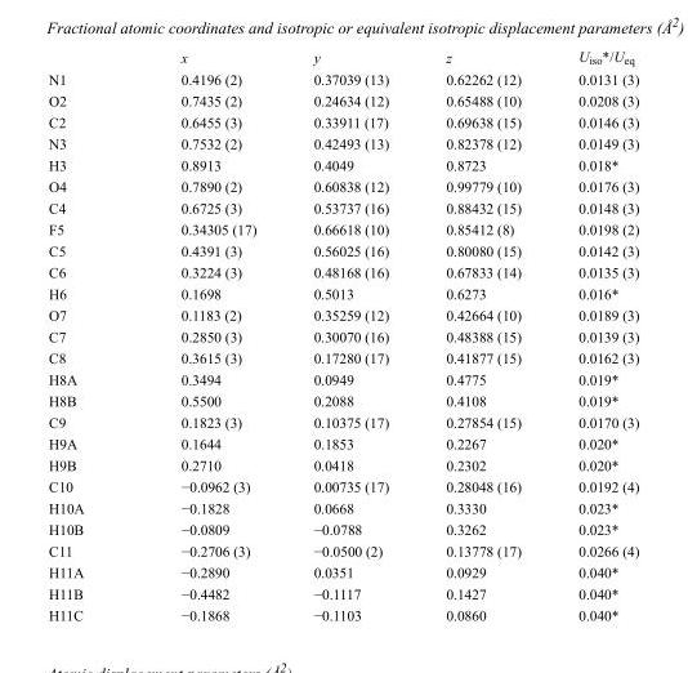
<table><thead><tr><td></td><td>x</td><td>y</td><td>z</td><td>U<sub>iso</sub>*/U<sub>eq</sub></td></tr></thead><tbody><tr><td>N1</td><td>0.4196 (2)</td><td>0.37039 (13)</td><td>0.62262 (12)</td><td>0.0131 (3)</td></tr><tr><td>O2</td><td>0.7435 (2)</td><td>0.24634 (12)</td><td>0.65488 (10)</td><td>0.0208 (3)</td></tr><tr><td>C2</td><td>0.6455 (3)</td><td>0.33911 (17)</td><td>0.69638 (15)</td><td>0.0146 (3)</td></tr><tr><td>N3</td><td>0.7532 (2)</td><td>0.42493 (13)</td><td>0.82378 (12)</td><td>0.0149 (3)</td></tr><tr><td>H3</td><td>0.8913</td><td>0.4049</td><td>0.8723</td><td>0.018*</td></tr><tr><td>O4</td><td>0.7890 (2)</td><td>0.60838 (12)</td><td>0.99779 (10)</td><td>0.0176 (3)</td></tr><tr><td>C4</td><td>0.6725 (3)</td><td>0.53737 (16)</td><td>0.88432 (15)</td><td>0.0148 (3)</td></tr><tr><td>F5</td><td>0.34305 (17)</td><td>0.66618 (10)</td><td>0.85412 (8)</td><td>0.0198 (2)</td></tr><tr><td>C5</td><td>0.4391 (3)</td><td>0.56025 (16)</td><td>0.80080 (15)</td><td>0.0142 (3)</td></tr><tr><td>C6</td><td>0.3224 (3)</td><td>0.48168 (16)</td><td>0.67833 (14)</td><td>0.0135 (3)</td></tr><tr><td>H6</td><td>0.1698</td><td>0.5013</td><td>0.6273</td><td>0.016*</td></tr><tr><td>O7</td><td>0.1183 (2)</td><td>0.35259 (12)</td><td>0.42664 (10)</td><td>0.0189 (3)</td></tr><tr><td>C7</td><td>0.2850 (3)</td><td>0.30070 (16)</td><td>0.48388 (15)</td><td>0.0139 (3)</td></tr><tr><td>C8</td><td>0.3615 (3)</td><td>0.17280 (17)</td><td>0.41877 (15)</td><td>0.0162 (3)</td></tr><tr><td>H8A</td><td>0.3494</td><td>0.0949</td><td>0.4775</td><td>0.019*</td></tr><tr><td>H8B</td><td>0.5500</td><td>0.2088</td><td>0.4108</td><td>0.019*</td></tr><tr><td>C9</td><td>0.1823 (3)</td><td>0.10375 (17)</td><td>0.27854 (15)</td><td>0.0170 (3)</td></tr><tr><td>H9A</td><td>0.1644</td><td>0.1853</td><td>0.2267</td><td>0.020*</td></tr><tr><td>H9B</td><td>0.2710</td><td>0.0418</td><td>0.2302</td><td>0.020*</td></tr><tr><td>C10</td><td>−0.0962 (3)</td><td>0.00735 (17)</td><td>0.28048 (16)</td><td>0.0192 (4)</td></tr><tr><td>H10A</td><td>−0.1828</td><td>0.0668</td><td>0.3330</td><td>0.023*</td></tr><tr><td>H10B</td><td>−0.0809</td><td>−0.0788</td><td>0.3262</td><td>0.023*</td></tr><tr><td>C11</td><td>−0.2706 (3)</td><td>−0.0500 (2)</td><td>0.13778 (17)</td><td>0.0266 (4)</td></tr><tr><td>H11A</td><td>−0.2890</td><td>0.0351</td><td>0.0929</td><td>0.040*</td></tr><tr><td>H11B</td><td>−0.4482</td><td>−0.1117</td><td>0.1427</td><td>0.040*</td></tr><tr><td>H11C</td><td>−0.1868</td><td>−0.1103</td><td>0.0860</td><td>0.040*</td></tr></tbody></table>